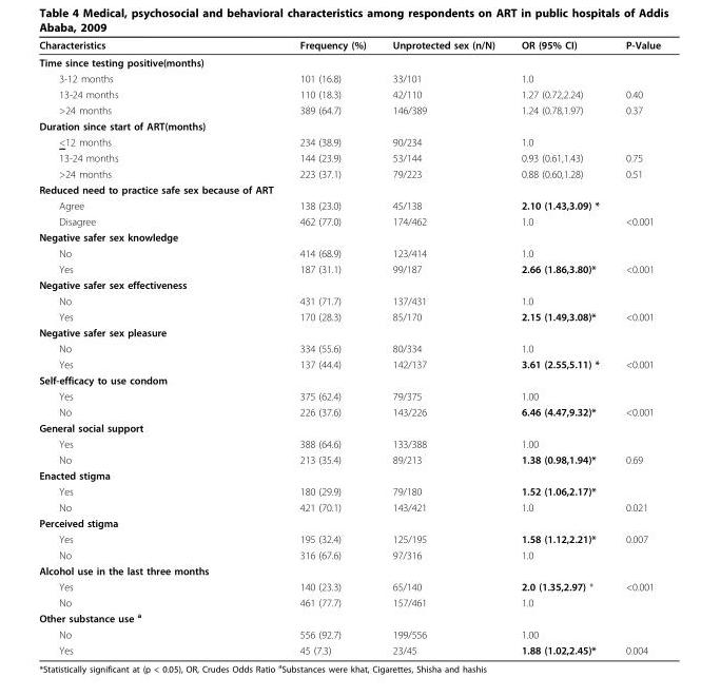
<table><thead><tr><td>Characteristics</td><td>Frequency (%)</td><td>Unprotected sex (n/N)</td><td>OR (95% CI)</td><td>P-Value</td></tr></thead><tbody><tr><td colspan="5">Time since testing positive(months)</td></tr><tr><td>3-12 months</td><td>101 (16.8)</td><td>33/101</td><td>1.0</td><td></td></tr><tr><td>13-24 months</td><td>110 (18.3)</td><td>42/110</td><td>1.27 (0.72,2.24)</td><td>0.40</td></tr><tr><td>&gt;24 months</td><td>389 (64.7)</td><td>146/389</td><td>1.24 (0.78,1.97)</td><td>0.37</td></tr><tr><td colspan="5">Duration since start of ART(months)</td></tr><tr><td>&lt;12 months</td><td>234 (38.9)</td><td>90/234</td><td>1.0</td><td></td></tr><tr><td>13-24 months</td><td>144 (23.9)</td><td>53/144</td><td>0.93 (0.61,1.43)</td><td>0.75</td></tr><tr><td>&gt;24 months</td><td>223 (37.1)</td><td>79/223</td><td>0.88 (0.60,1.28)</td><td>0.51</td></tr><tr><td colspan="5">Reduced need to practice safe sex because of ART</td></tr><tr><td>Agree</td><td>138 (23.0)</td><td>45/138</td><td>2.10 (1.43,3.09) *</td><td></td></tr><tr><td>Disagree</td><td>462 (77.0)</td><td>174/462</td><td>1.0</td><td>&lt;0.001</td></tr><tr><td colspan="5">Negative safer sex knowledge</td></tr><tr><td>No</td><td>414 (68.9)</td><td>123/414</td><td>1.0</td><td></td></tr><tr><td>Yes</td><td>187 (31.1)</td><td>99/187</td><td>2.66 (1.86,3.80)*</td><td>&lt;0.001</td></tr><tr><td colspan="5">Negative safer sex effectiveness</td></tr><tr><td>No</td><td>431 (71.7)</td><td>137/431</td><td>1.0</td><td></td></tr><tr><td>Yes</td><td>170 (28.3)</td><td>85/170</td><td>2.15 (1.49,3.08)*</td><td>&lt;0.001</td></tr><tr><td colspan="5">Negative safer sex pleasure</td></tr><tr><td>No</td><td>334 (55.6)</td><td>80/334</td><td>1.0</td><td></td></tr><tr><td>Yes</td><td>137 (44.4)</td><td>142/137</td><td>3.61 (2.55,5.11) *</td><td>&lt;0.001</td></tr><tr><td colspan="5">Self-efficacy to use condom</td></tr><tr><td>Yes</td><td>375 (62.4)</td><td>79/375</td><td>1.00</td><td></td></tr><tr><td>No</td><td>226 (37.6)</td><td>143/226</td><td>6.46 (4.47,9.32)*</td><td>&lt;0.001</td></tr><tr><td colspan="5">General social support</td></tr><tr><td>Yes</td><td>388 (64.6)</td><td>133/388</td><td>1.00</td><td></td></tr><tr><td>No</td><td>213 (35.4)</td><td>89/213</td><td>1.38 (0.98,1.94)*</td><td>0.69</td></tr><tr><td colspan="5">Enacted stigma</td></tr><tr><td>Yes</td><td>180 (29.9)</td><td>79/180</td><td>1.52 (1.06,2.17)*</td><td></td></tr><tr><td>No</td><td>421 (70.1)</td><td>143/421</td><td>1.0</td><td>0.021</td></tr><tr><td colspan="5">Perceived stigma</td></tr><tr><td>Yes</td><td>195 (32.4)</td><td>125/195</td><td>1.58 (1.12,2.21)*</td><td>0.007</td></tr><tr><td>No</td><td>316 (67.6)</td><td>97/316</td><td>1.0</td><td></td></tr><tr><td colspan="5">Alcohol use in the last three months</td></tr><tr><td>Yes</td><td>140 (23.3)</td><td>65/140</td><td>2.0 (1.35,2.97) *</td><td>&lt;0.001</td></tr><tr><td>No</td><td>461 (77.7)</td><td>157/461</td><td>1.0</td><td></td></tr><tr><td colspan="5">Other substance use <sup>a</sup></td></tr><tr><td>No</td><td>556 (92.7)</td><td>199/556</td><td>1.00</td><td></td></tr><tr><td>Yes</td><td>45 (7.3)</td><td>23/45</td><td>1.88 (1.02,2.45)*</td><td>0.004</td></tr></tbody></table>